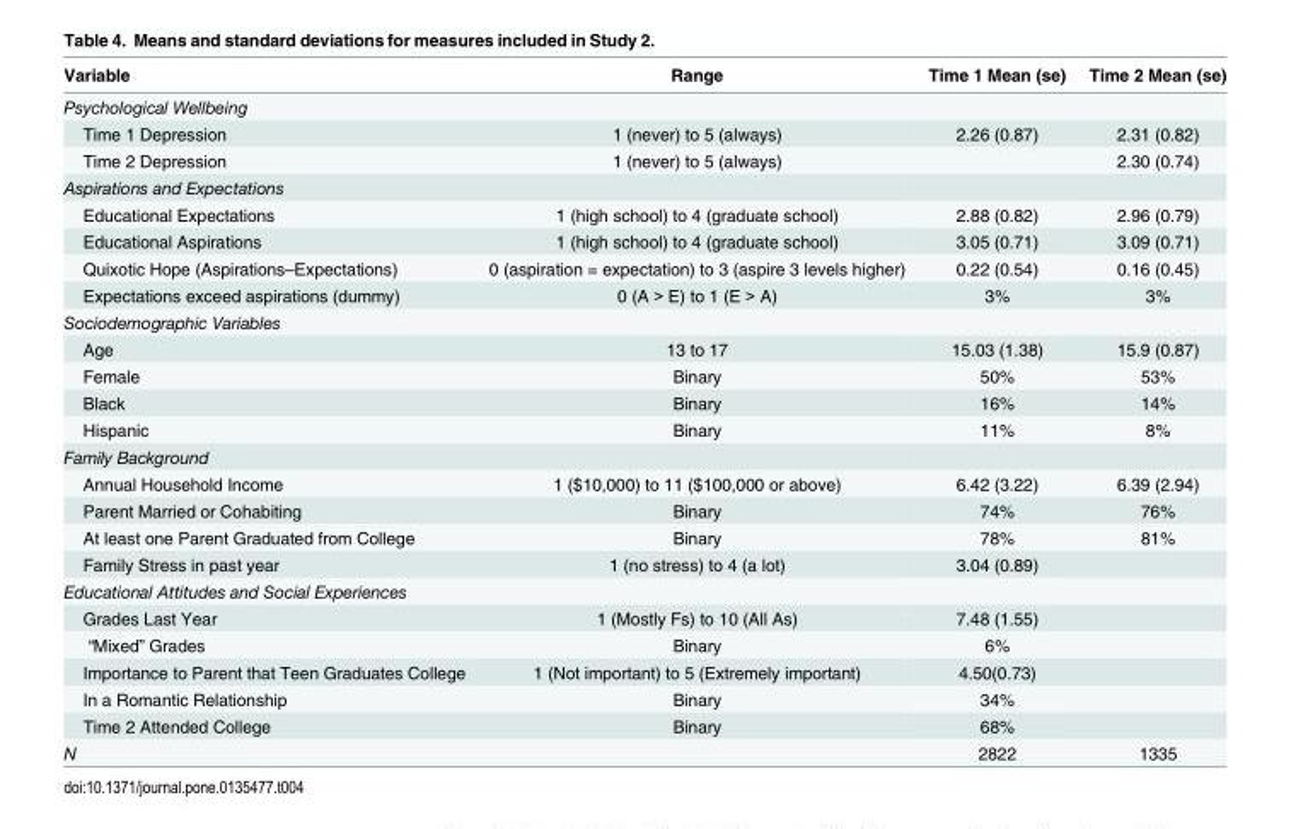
<table><thead><tr><td>Variable</td><td>Range</td><td>Time 1 Mean (se)</td><td>Time 2 Mean (se)</td></tr></thead><tbody><tr><td colspan="4">Psychological Wellbeing</td></tr><tr><td>Time 1 Depression</td><td>1 (never) to 5 (always)</td><td>2.26 (0.87)</td><td>2.31 (0.82)</td></tr><tr><td>Time 2 Depression</td><td>1 (never) to 5 (always)</td><td></td><td>2.30 (0.74)</td></tr><tr><td colspan="4">Aspirations and Expectations</td></tr><tr><td>Educational Expectations</td><td>1 (high school) to 4 (graduate school)</td><td>2.88 (0.82)</td><td>2.96 (0.79)</td></tr><tr><td>Educational Aspirations</td><td>1 (high school) to 4 (graduate school)</td><td>3.05 (0.71)</td><td>3.09 (0.71)</td></tr><tr><td>Quixotic Hope (Aspirations–Expectations)</td><td>0 (aspiration = expectation) to 3 (aspire 3 levels higher)</td><td>0.22 (0.54)</td><td>0.16 (0.45)</td></tr><tr><td>Expectations exceed aspirations (dummy)</td><td>0 (A &gt; E) to 1 (E &gt; A)</td><td>3%</td><td>3%</td></tr><tr><td colspan="4">Sociodemographic Variables</td></tr><tr><td>Age</td><td>13 to 17</td><td>15.03 (1.38)</td><td>15.9 (0.87)</td></tr><tr><td>Female</td><td>Binary</td><td>50%</td><td>53%</td></tr><tr><td>Black</td><td>Binary</td><td>16%</td><td>14%</td></tr><tr><td>Hispanic</td><td>Binary</td><td>11%</td><td>8%</td></tr><tr><td colspan="4">Family Background</td></tr><tr><td>Annual Household Income</td><td>1 ($10,000) to 11 ($100,000 or above)</td><td>6.42 (3.22)</td><td>6.39 (2.94)</td></tr><tr><td>Parent Married or Cohabiting</td><td>Binary</td><td>74%</td><td>76%</td></tr><tr><td>At least one Parent Graduated from College</td><td>Binary</td><td>78%</td><td>81%</td></tr><tr><td>Family Stress in past year</td><td>1 (no stress) to 4 (a lot)</td><td>3.04 (0.89)</td><td></td></tr><tr><td colspan="4">Educational Attitudes and Social Experiences</td></tr><tr><td>Grades Last Year</td><td>1 (Mostly Fs) to 10 (All As)</td><td>7.48 (1.55)</td><td></td></tr><tr><td>“Mixed” Grades</td><td>Binary</td><td>6%</td><td></td></tr><tr><td>Importance to Parent that Teen Graduates College</td><td>1 (Not important) to 5 (Extremely important)</td><td>4.50(0.73)</td><td></td></tr><tr><td>In a Romantic Relationship</td><td>Binary</td><td>34%</td><td></td></tr><tr><td>Time 2 Attended College</td><td>Binary</td><td>68%</td><td></td></tr><tr><td>N</td><td></td><td>2822</td><td>1335</td></tr></tbody></table>